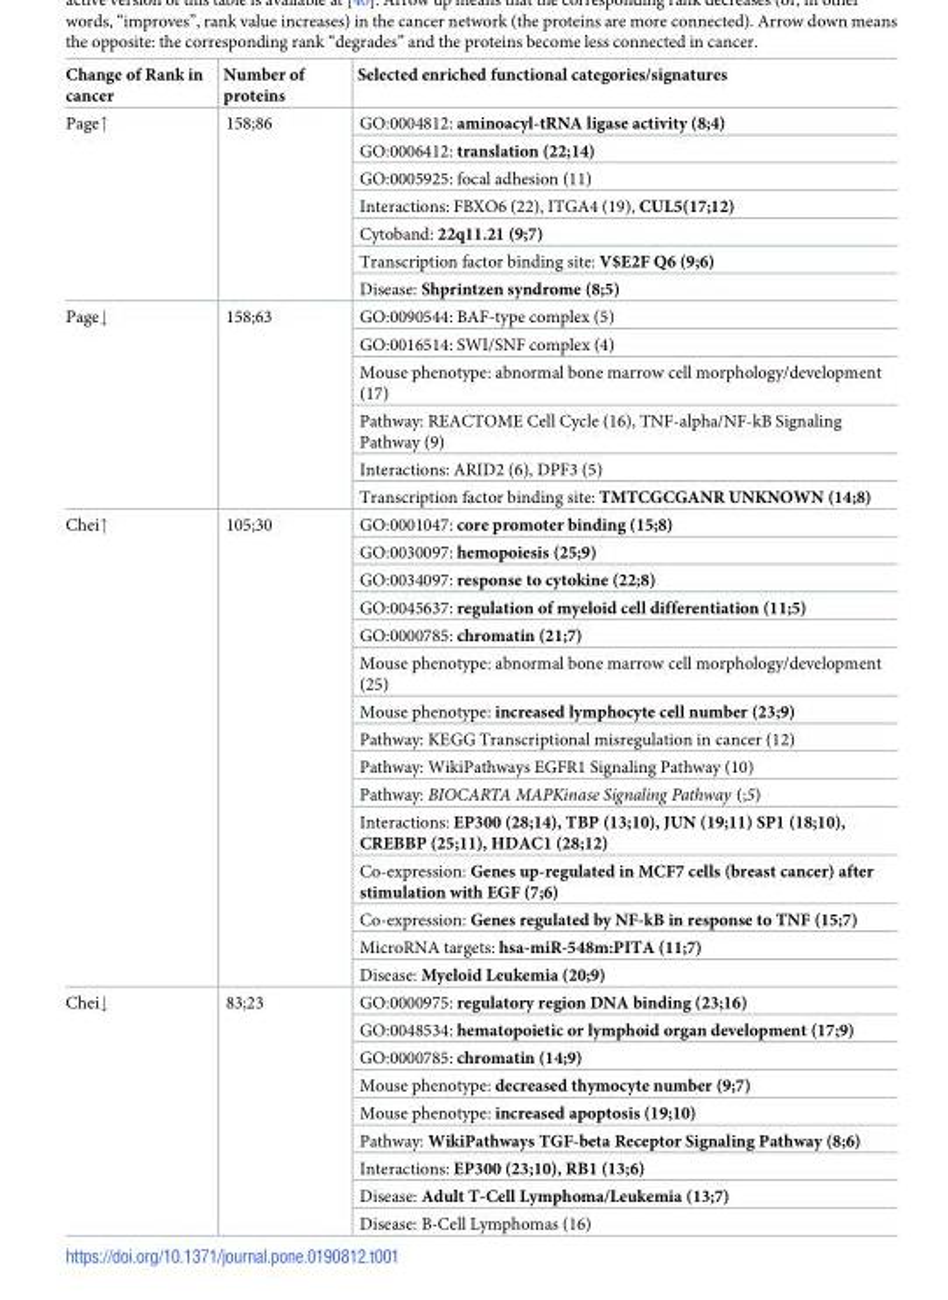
<table><thead><tr><td>Change of Rank in cancer</td><td>Number of proteins</td><td>Selected enriched functional categories/signatures</td></tr></thead><tbody><tr><td rowspan="7">Page↑</td><td rowspan="7">158;86</td><td>GO:0004812: aminoacyl-tRNA ligase activity (8;4)</td></tr><tr><td>GO:0006412: translation (22;14)</td></tr><tr><td>GO:0005925: focal adhesion (11)</td></tr><tr><td>Interactions: FBXO6 (22), ITGA4 (19), CUL5(17;12)</td></tr><tr><td>Cytoband: 22q11.21 (9;7)</td></tr><tr><td>Transcription factor binding site: V$E2F Q6 (9;6)</td></tr><tr><td>Disease: Shprintzen syndrome (8;5)</td></tr><tr><td rowspan="6">Page↓</td><td rowspan="6">158;63</td><td>GO:0090544: BAF-type complex (5)</td></tr><tr><td>GO:0016514: SWI/SNF complex (4)</td></tr><tr><td>Mouse phenotype: abnormal bone marrow cell morphology/development (17)</td></tr><tr><td>Pathway: REACTOME Cell Cycle (16), TNF-alpha/NF-kB Signaling Pathway (9)</td></tr><tr><td>Interactions: ARID2 (6), DPF3 (5)</td></tr><tr><td>Transcription factor binding site: TMTCGCGANR UNKNOWN (14;8)</td></tr><tr><td rowspan="15">Chei↑</td><td rowspan="15">105;30</td><td>GO:0001047: core promoter binding (15;8)</td></tr><tr><td>GO:0030097: hemopoiesis (25;9)</td></tr><tr><td>GO:0034097: response to cytokine (22;8)</td></tr><tr><td>GO:0045637: regulation of myeloid cell differentiation (11;5)</td></tr><tr><td>GO:0000785: chromatin (21;7)</td></tr><tr><td>Mouse phenotype: abnormal bone marrow cell morphology/development (25)</td></tr><tr><td>Mouse phenotype: increased lymphocyte cell number (23;9)</td></tr><tr><td>Pathway: KEGG Transcriptional misregulation in cancer (12)</td></tr><tr><td>Pathway: WikiPathways EGFR1 Signaling Pathway (10)</td></tr><tr><td>Pathway: BIOCARTA MAPKinase Signaling Pathway (;5)</td></tr><tr><td>Interactions: EP300 (28;14), TBP (13;10), JUN (19;11) SP1 (18;10), CREBBP (25;11), HDAC1 (28;12)</td></tr><tr><td>Co-expression: Genes up-regulated in MCF7 cells (breast cancer) after stimulation with EGF (7;6)</td></tr><tr><td>Co-expression: Genes regulated by NF-kB in response to TNF (15;7)</td></tr><tr><td>MicroRNA targets: hsa-miR-548m:PITA (11;7)</td></tr><tr><td>Disease: Myeloid Leukemia (20;9)</td></tr><tr><td rowspan="9">Chei↓</td><td rowspan="9">83;23</td><td>GO:0000975: regulatory region DNA binding (23;16)</td></tr><tr><td>GO:0048534: hematopoietic or lymphoid organ development (17;9)</td></tr><tr><td>GO:0000785: chromatin (14;9)</td></tr><tr><td>Mouse phenotype: decreased thymocyte number (9;7)</td></tr><tr><td>Mouse phenotype: increased apoptosis (19;10)</td></tr><tr><td>Pathway: WikiPathways TGF-beta Receptor Signaling Pathway (8;6)</td></tr><tr><td>Interactions: EP300 (23;10), RB1 (13;6)</td></tr><tr><td>Disease: Adult T-Cell Lymphoma/Leukemia (13;7)</td></tr><tr><td>Disease: B-Cell Lymphomas (16)</td></tr></tbody></table>